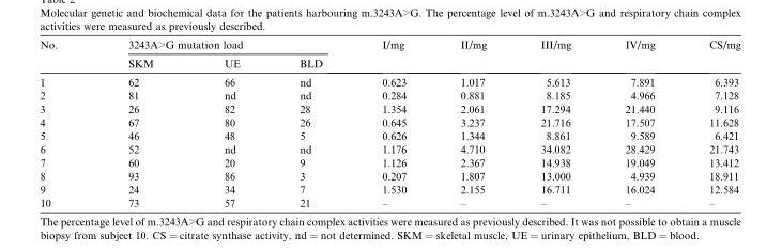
<table><thead><tr><td rowspan="2">No.</td><td colspan="3">3243A&gt;G mutation load</td><td rowspan="2">I/mg</td><td rowspan="2">II/mg</td><td rowspan="2">III/mg</td><td rowspan="2">IV/mg</td><td rowspan="2">CS/mg</td></tr><tr><td>SKM</td><td>UE</td><td>BLD</td></tr></thead><tbody><tr><td>1</td><td>62</td><td>66</td><td>nd</td><td>0.623</td><td>1.017</td><td>5.613</td><td>7.891</td><td>6.393</td></tr><tr><td>2</td><td>81</td><td>nd</td><td>nd</td><td>0.284</td><td>0.881</td><td>8.185</td><td>4.966</td><td>7.128</td></tr><tr><td>3</td><td>26</td><td>82</td><td>28</td><td>1.354</td><td>2.061</td><td>17.294</td><td>21.440</td><td>9.116</td></tr><tr><td>4</td><td>67</td><td>80</td><td>26</td><td>0.645</td><td>3.237</td><td>21.716</td><td>17.507</td><td>11.628</td></tr><tr><td>5</td><td>46</td><td>48</td><td>5</td><td>0.626</td><td>1.344</td><td>8.861</td><td>9.589</td><td>6.421</td></tr><tr><td>6</td><td>52</td><td>nd</td><td>nd</td><td>1.176</td><td>4.710</td><td>34.082</td><td>28.429</td><td>21.743</td></tr><tr><td>7</td><td>60</td><td>20</td><td>9</td><td>1.126</td><td>2.367</td><td>14.938</td><td>19.049</td><td>13.412</td></tr><tr><td>8</td><td>93</td><td>86</td><td>3</td><td>0.207</td><td>1.807</td><td>13.000</td><td>4.939</td><td>18.911</td></tr><tr><td>9</td><td>24</td><td>34</td><td>7</td><td>1.530</td><td>2.155</td><td>16.711</td><td>16.024</td><td>12.584</td></tr><tr><td>10</td><td>73</td><td>57</td><td>21</td><td>–</td><td>–</td><td>–</td><td>–</td><td>–</td></tr></tbody></table>